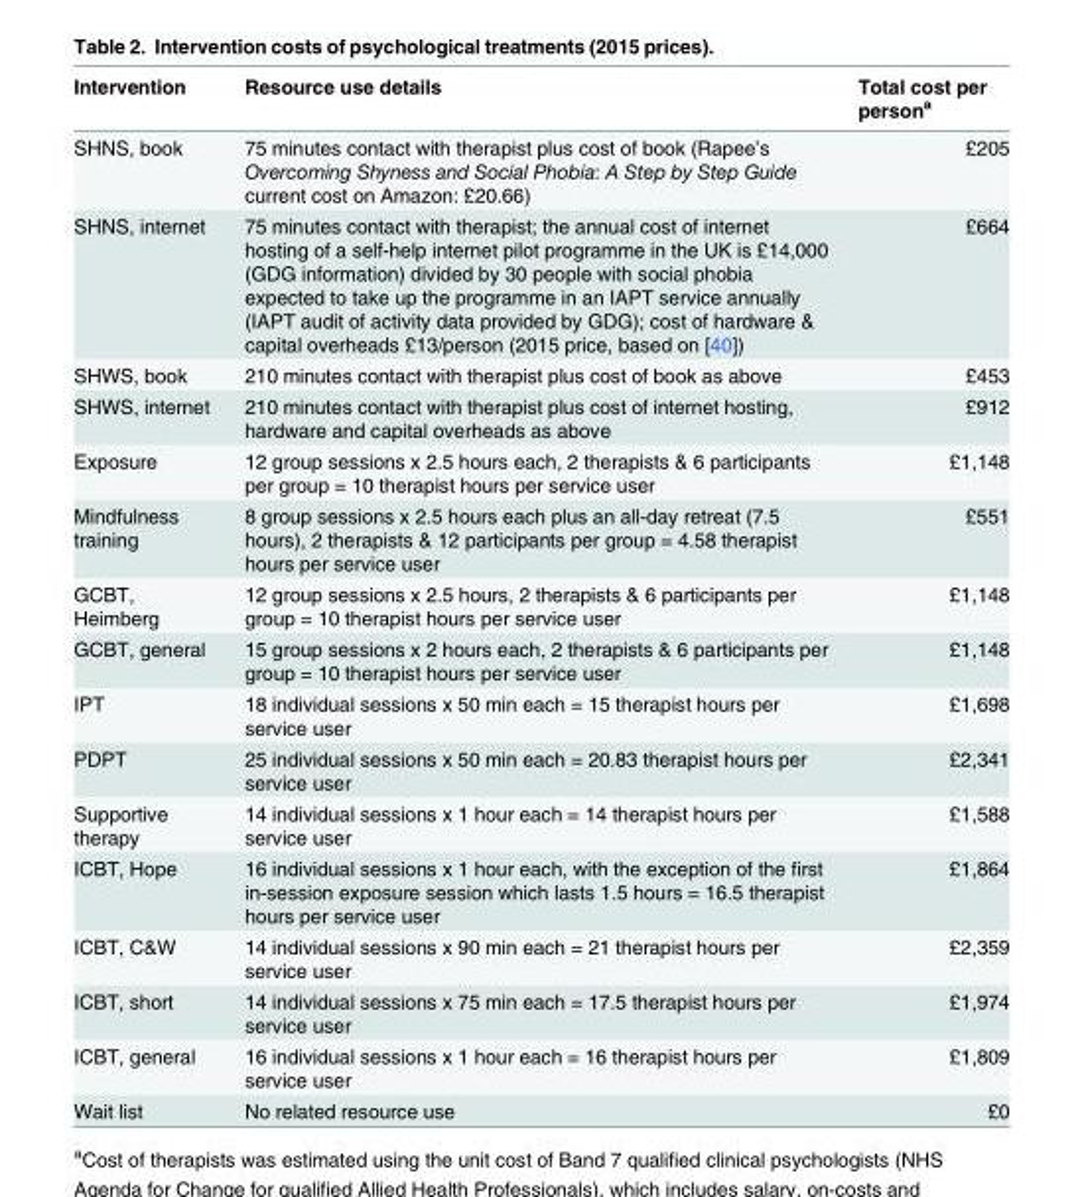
<table><thead><tr><td>Intervention</td><td>Resource use details</td><td>Total cost per person<sup>a</sup></td></tr></thead><tbody><tr><td>SHNS, book</td><td>75 minutes contact with therapist plus cost of book (Rapee’s Overcoming Shyness and Social Phobia: A Step by Step Guide current cost on Amazon: £20.66)</td><td>£205</td></tr><tr><td>SHNS, internet</td><td>75 minutes contact with therapist; the annual cost of internet hosting of a self-help internet pilot programme in the UK is £14,000 (GDG information) divided by 30 people with social phobia expected to take up the programme in an IAPT service annually (IAPT audit of activity data provided by GDG); cost of hardware &amp; capital overheads £13/person (2015 price, based on [40])</td><td>£664</td></tr><tr><td>SHWS, book</td><td>210 minutes contact with therapist plus cost of book as above</td><td>£453</td></tr><tr><td>SHWS, internet</td><td>210 minutes contact with therapist plus cost of internet hosting, hardware and capital overheads as above</td><td>£912</td></tr><tr><td>Exposure</td><td>12 group sessions x 2.5 hours each, 2 therapists &amp; 6 participants per group = 10 therapist hours per service user</td><td>£1,148</td></tr><tr><td>Mindfulness training</td><td>8 group sessions x 2.5 hours each plus an all-day retreat (7.5 hours), 2 therapists &amp; 12 participants per group = 4.58 therapist hours per service user</td><td>£551</td></tr><tr><td>GCBT, Heimberg</td><td>12 group sessions x 2.5 hours, 2 therapists &amp; 6 participants per group = 10 therapist hours per service user</td><td>£1,148</td></tr><tr><td>GCBT, general</td><td>15 group sessions x 2 hours each, 2 therapists &amp; 6 participants per group = 10 therapist hours per service user</td><td>£1,148</td></tr><tr><td>IPT</td><td>18 individual sessions x 50 min each = 15 therapist hours per service user</td><td>£1,698</td></tr><tr><td>PDPT</td><td>25 individual sessions x 50 min each = 20.83 therapist hours per service user</td><td>£2,341</td></tr><tr><td>Supportive therapy</td><td>14 individual sessions x 1 hour each = 14 therapist hours per service user</td><td>£1,588</td></tr><tr><td>ICBT, Hope</td><td>16 individual sessions x 1 hour each, with the exception of the first in-session exposure session which lasts 1.5 hours = 16.5 therapist hours per service user</td><td>£1,864</td></tr><tr><td>ICBT, C&amp;W</td><td>14 individual sessions x 90 min each = 21 therapist hours per service user</td><td>£2,359</td></tr><tr><td>ICBT, short</td><td>14 individual sessions x 75 min each = 17.5 therapist hours per service user</td><td>£1,974</td></tr><tr><td>ICBT, general</td><td>16 individual sessions x 1 hour each = 16 therapist hours per service user</td><td>£1,809</td></tr><tr><td>Wait list</td><td>No related resource use</td><td>£0</td></tr></tbody></table>